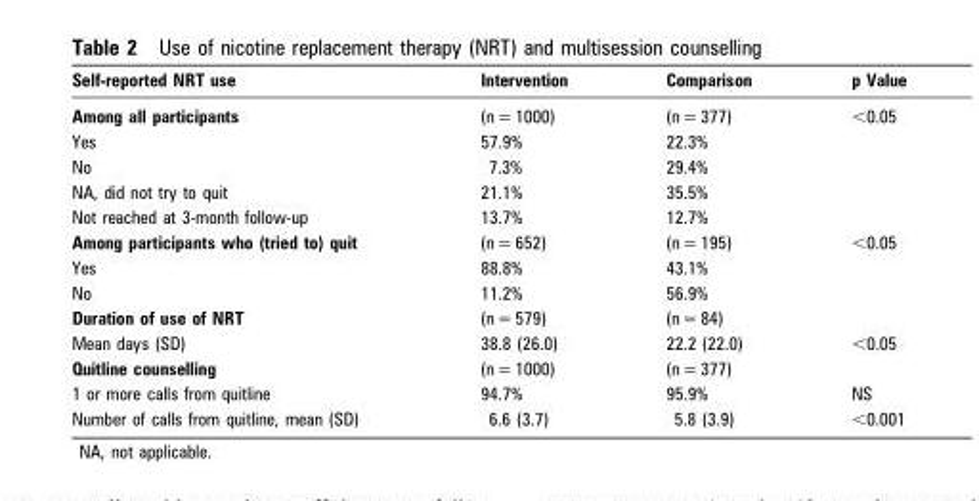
<table><thead><tr><td>Self-reported NRT use</td><td>Intervention</td><td>Comparison</td><td>p Value</td></tr></thead><tbody><tr><td>Among all participants</td><td>(n = 1000)</td><td>(n = 377)</td><td>&lt;0.05</td></tr><tr><td>Yes</td><td>57.9%</td><td>22.3%</td><td></td></tr><tr><td>No</td><td>7.3%</td><td>29.4%</td><td></td></tr><tr><td>NA, did not try to quit</td><td>21.1%</td><td>35.5%</td><td></td></tr><tr><td>Not reached at 3-month follow-up</td><td>13.7%</td><td>12.7%</td><td></td></tr><tr><td>Among participants who (tried to) quit</td><td>(n = 652)</td><td>(n = 195)</td><td>&lt;0.05</td></tr><tr><td>Yes</td><td>88.8%</td><td>43.1%</td><td></td></tr><tr><td>No</td><td>11.2%</td><td>56.9%</td><td></td></tr><tr><td>Duration of use of NRT</td><td>(n = 579)</td><td>(n = 84)</td><td></td></tr><tr><td>Mean days (SD)</td><td>38.8 (26.0)</td><td>22.2 (22.0)</td><td>&lt;0.05</td></tr><tr><td>Quitline counselling</td><td>(n = 1000)</td><td>(n = 377)</td><td></td></tr><tr><td>1 or more calls from quitline</td><td>94.7%</td><td>95.9%</td><td>NS</td></tr><tr><td>Number of calls from quitline, mean (SD)</td><td>6.6 (3.7)</td><td>5.8 (3.9)</td><td>&lt;0.001</td></tr></tbody></table>